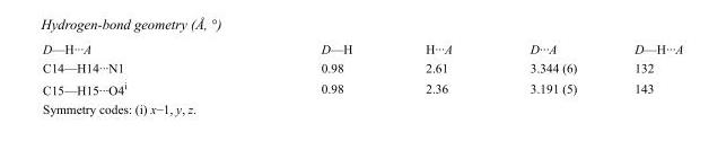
<table><tbody><tr><td>D—H···A</td><td>D—H</td><td>H···A</td><td>D···A</td><td>D—H···A</td></tr><tr><td>C14—H14···N1</td><td>0.98</td><td>2.61</td><td>3.344 (6)</td><td>132</td></tr><tr><td>C15—H15···O4<sup>i</sup></td><td>0.98</td><td>2.36</td><td>3.191 (5)</td><td>143</td></tr></tbody></table>